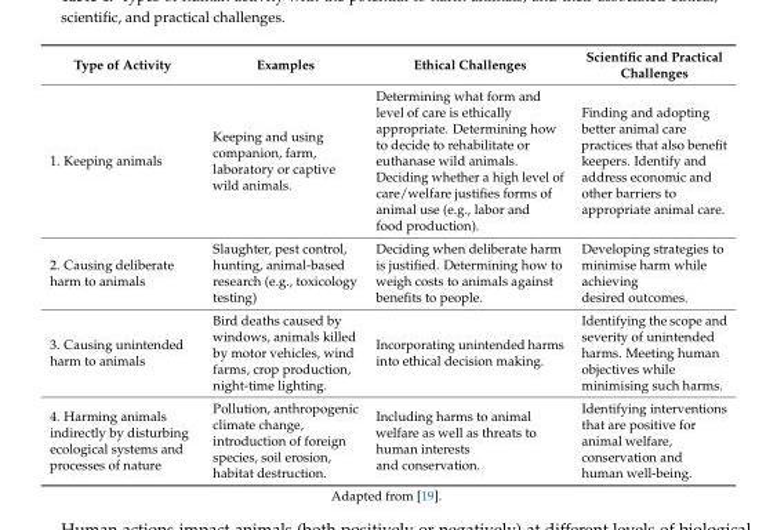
<table><thead><tr><td>Type of Activity</td><td>Examples</td><td>Ethical Challenges</td><td>Scientific and Practical Challenges</td></tr></thead><tbody><tr><td>1. Keeping animals</td><td>Keeping and using companion, farm, laboratory or captive wild animals.</td><td>Determining what form and level of care is ethically appropriate. Determining how to decide to rehabilitate or euthanase wild animals. Deciding whether a high level of care/welfare justifies forms of animal use (e.g., labor and food production).</td><td>Finding and adopting better animal care practices that also benefit keepers. Identify and address economic and other barriers to appropriate animal care.</td></tr><tr><td>2. Causing deliberate harm to animals</td><td>Slaughter, pest control, hunting, animal-based research (e.g., toxicology testing)</td><td>Deciding when deliberate harm is justified. Determining how to weigh costs to animals against benefits to people.</td><td>Developing strategies to minimise harm while achieving desired outcomes.</td></tr><tr><td>3. Causing unintended harm to animals</td><td>Bird deaths caused by windows, animals killed by motor vehicles, wind farms, crop production, night-time lighting.</td><td>Incorporating unintended harms into ethical decision making.</td><td>Identifying the scope and severity of unintended harms. Meeting human objectives while minimising such harms.</td></tr><tr><td>4. Harming animals indirectly by disturbing ecological systems and processes of nature</td><td>Pollution, anthropogenic climate change, introduction of foreign species, soil erosion, habitat destruction.</td><td>Including harms to animal welfare as well as threats to human interests and conservation.</td><td>Identifying interventions that are positive for animal welfare, conservation and human well-being.</td></tr></tbody></table>